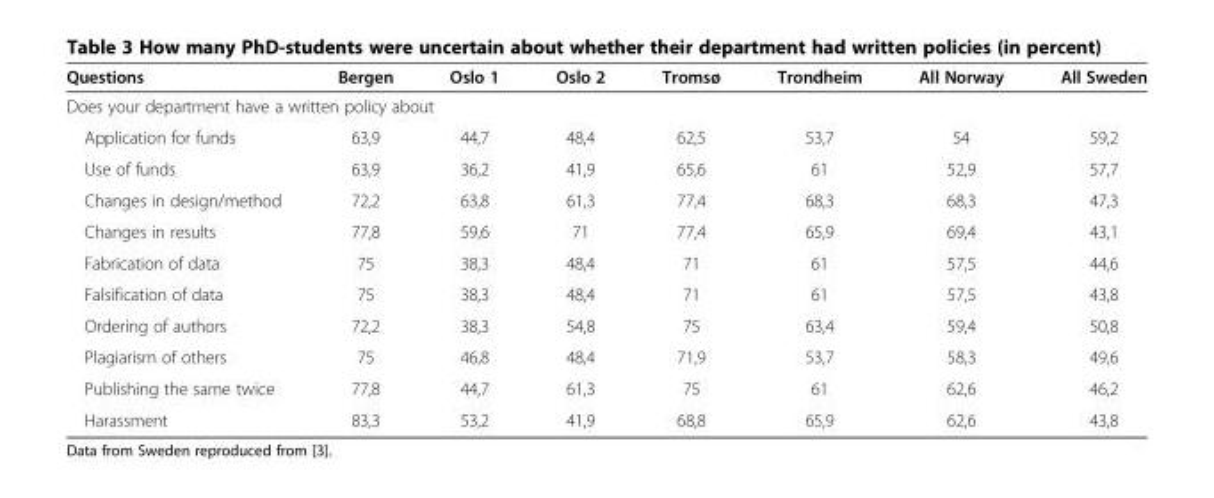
<table><thead><tr><td>Questions</td><td>Bergen</td><td>Oslo 1</td><td>Oslo 2</td><td>Tromsø</td><td>Trondheim</td><td>All Norway</td><td>All Sweden</td></tr></thead><tbody><tr><td colspan="8">Does your department have a written policy about</td></tr><tr><td>Application for funds</td><td>63,9</td><td>44,7</td><td>48,4</td><td>62,5</td><td>53,7</td><td>54</td><td>59,2</td></tr><tr><td>Use of funds</td><td>63,9</td><td>36,2</td><td>41,9</td><td>65,6</td><td>61</td><td>52,9</td><td>57,7</td></tr><tr><td>Changes in design/method</td><td>72,2</td><td>63,8</td><td>61,3</td><td>77,4</td><td>68,3</td><td>68,3</td><td>47,3</td></tr><tr><td>Changes in results</td><td>77,8</td><td>59,6</td><td>71</td><td>77,4</td><td>65,9</td><td>69,4</td><td>43,1</td></tr><tr><td>Fabrication of data</td><td>75</td><td>38,3</td><td>48,4</td><td>71</td><td>61</td><td>57,5</td><td>44,6</td></tr><tr><td>Falsification of data</td><td>75</td><td>38,3</td><td>48,4</td><td>71</td><td>61</td><td>57,5</td><td>43,8</td></tr><tr><td>Ordering of authors</td><td>72,2</td><td>38,3</td><td>54,8</td><td>75</td><td>63,4</td><td>59,4</td><td>50,8</td></tr><tr><td>Plagiarism of others</td><td>75</td><td>46,8</td><td>48,4</td><td>71,9</td><td>53,7</td><td>58,3</td><td>49,6</td></tr><tr><td>Publishing the same twice</td><td>77,8</td><td>44,7</td><td>61,3</td><td>75</td><td>61</td><td>62,6</td><td>46,2</td></tr><tr><td>Harassment</td><td>83,3</td><td>53,2</td><td>41,9</td><td>68,8</td><td>65,9</td><td>62,6</td><td>43,8</td></tr></tbody></table>